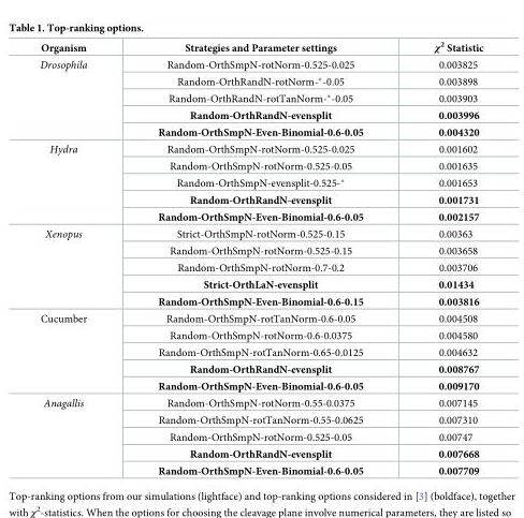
<table><thead><tr><td>Organism</td><td>Strategies and Parameter settings</td><td>χ<sup>2</sup> Statistic</td></tr></thead><tbody><tr><td rowspan="5">Drosophila</td><td>Random-OrthSmpN-rotNorm-0.525-0.025</td><td>0.003825</td></tr><tr><td>Random-OrthRandN-rotNorm-*-0.05</td><td>0.003898</td></tr><tr><td>Random-OrthRandN-rotTanNorm-*-0.05</td><td>0.003903</td></tr><tr><td>Random-OrthRandN-evensplit</td><td>0.003996</td></tr><tr><td>Random-OrthSmpN-Even-Binomial-0.6-0.05</td><td>0.004320</td></tr><tr><td rowspan="5">Hydra</td><td>Random-OrthSmpN-rotNorm-0.525-0.025</td><td>0.001602</td></tr><tr><td>Random-OrthSmpN-rotNorm-0.525-0.05</td><td>0.001635</td></tr><tr><td>Random-OrthSmpN-evensplit-0.525-*</td><td>0.001653</td></tr><tr><td>Random-OrthRandN-evensplit</td><td>0.001731</td></tr><tr><td>Random-OrthSmpN-Even-Binomial-0.6-0.05</td><td>0.002157</td></tr><tr><td rowspan="5">Xenopus</td><td>Strict-OrthSmpN-rotNorm-0.525-0.15</td><td>0.00363</td></tr><tr><td>Random-OrthSmpN-rotNorm-0.525-0.15</td><td>0.003658</td></tr><tr><td>Random-OrthSmpN-rotNorm-0.7-0.2</td><td>0.003706</td></tr><tr><td>Strict-OrthLaN-evensplit</td><td>0.01434</td></tr><tr><td>Random-OrthSmpN-Even-Binomial-0.6-0.15</td><td>0.003816</td></tr><tr><td rowspan="5">Cucumber</td><td>Random-OrthSmpN-rotTanNorm-0.6-0.05</td><td>0.004508</td></tr><tr><td>Random-OrthSmpN-rotNorm-0.6-0.0375</td><td>0.004580</td></tr><tr><td>Random-OrthSmpN-rotTanNorm-0.65-0.0125</td><td>0.004632</td></tr><tr><td>Random-OrthRandN-evensplit</td><td>0.008767</td></tr><tr><td>Random-OrthSmpN-Even-Binomial-0.6-0.05</td><td>0.009170</td></tr><tr><td rowspan="5">Anagallis</td><td>Random-OrthSmpN-rotNorm-0.55-0.0375</td><td>0.007145</td></tr><tr><td>Random-OrthSmpN-rotTanNorm-0.55-0.0625</td><td>0.007310</td></tr><tr><td>Random-OrthSmpN-rotNorm-0.525-0.05</td><td>0.00747</td></tr><tr><td>Random-OrthRandN-evensplit</td><td>0.007668</td></tr><tr><td>Random-OrthSmpN-Even-Binomial-0.6-0.05</td><td>0.007709</td></tr></tbody></table>